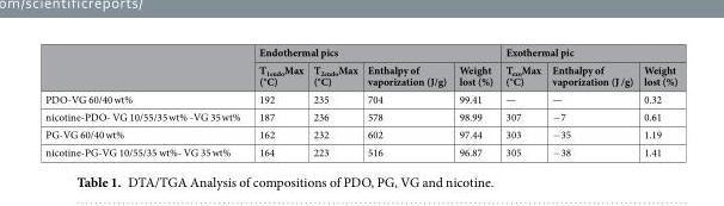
<table><thead><tr><td rowspan="2"></td><td colspan="4">Endothermal pics</td><td colspan="3">Exothermal pic</td></tr><tr><td>T<sub>1endo</sub>Max (°C)</td><td>T<sub>2endo</sub>Max (°C)</td><td>Enthalpy of vaporization (J/g)</td><td>Weight lost (%)</td><td>T<sub>exo</sub>Max (°C)</td><td>Enthalpy of vaporization (J /g)</td><td>Weight lost (%)</td></tr></thead><tbody><tr><td>PDO-VG 60/40 wt%</td><td>192</td><td>235</td><td>704</td><td>99.41</td><td>—</td><td>—</td><td>0.32</td></tr><tr><td>nicotine-PDO- VG 10/55/35 wt% -VG 35 wt%</td><td>187</td><td>236</td><td>578</td><td>98.99</td><td>307</td><td>−7</td><td>0.61</td></tr><tr><td>PG-VG 60/40 wt%</td><td>162</td><td>232</td><td>602</td><td>97.44</td><td>303</td><td>−35</td><td>1.19</td></tr><tr><td>nicotine-PG-VG 10/55/35 wt%- VG 35 wt%</td><td>164</td><td>223</td><td>516</td><td>96.87</td><td>305</td><td>−38</td><td>1.41</td></tr></tbody></table>